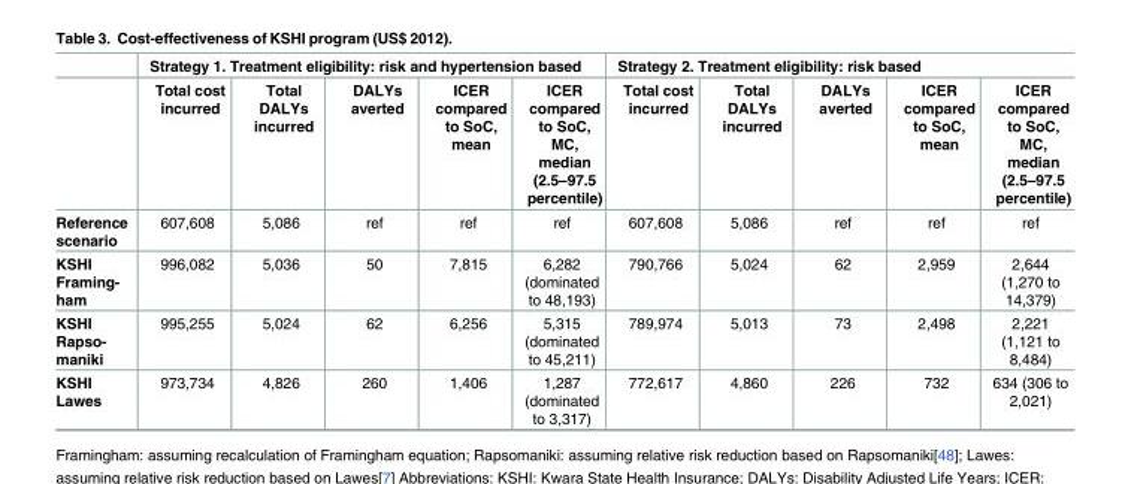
<table><thead><tr><td rowspan="2"></td><td colspan="5">Strategy 1. Treatment eligibility: risk and hypertension based</td><td colspan="5">Strategy 2. Treatment eligibility: risk based</td></tr><tr><td>Total cost incurred</td><td>Total DALYs incurred</td><td>DALYs averted</td><td>ICER compared to SoC, mean</td><td>ICER compared to SoC, MC, median (2.5–97.5 percentile)</td><td>Total cost incurred</td><td>Total DALYs incurred</td><td>DALYs averted</td><td>ICER compared to SoC, mean</td><td>ICER compared to SoC, MC, median (2.5–97.5 percentile)</td></tr></thead><tbody><tr><td>Reference scenario</td><td>607,608</td><td>5,086</td><td>ref</td><td>ref</td><td>ref</td><td>607,608</td><td>5,086</td><td>ref</td><td>ref</td><td>ref</td></tr><tr><td>KSHI Framing- ham</td><td>996,082</td><td>5,036</td><td>50</td><td>7,815</td><td>6,282 (dominated to 48,193)</td><td>790,766</td><td>5,024</td><td>62</td><td>2,959</td><td>2,644 (1,270 to 14,379)</td></tr><tr><td>KSHI Rapso- maniki</td><td>995,255</td><td>5,024</td><td>62</td><td>6,256</td><td>5,315 (dominated to 45,211)</td><td>789,974</td><td>5,013</td><td>73</td><td>2,498</td><td>2,221 (1,121 to 8,484)</td></tr><tr><td>KSHI Lawes</td><td>973,734</td><td>4,826</td><td>260</td><td>1,406</td><td>1,287 (dominated to 3,317)</td><td>772,617</td><td>4,860</td><td>226</td><td>732</td><td>634 (306 to 2,021)</td></tr></tbody></table>